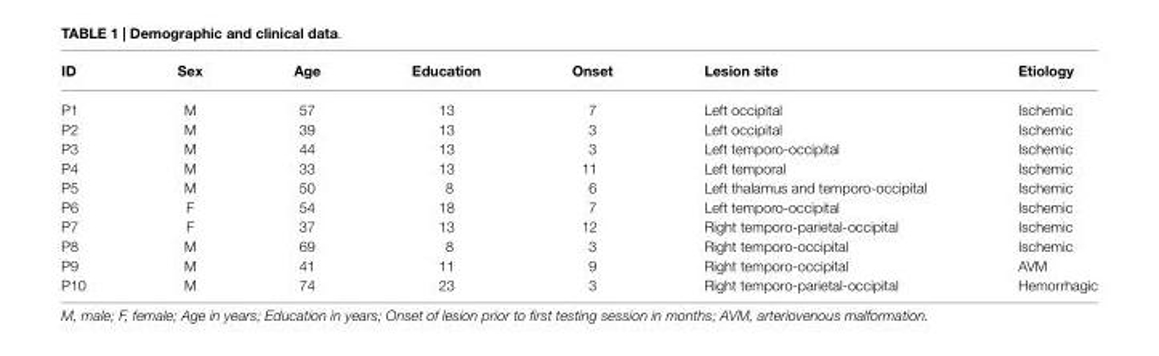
<table><thead><tr><td>ID</td><td>Sex</td><td>Age</td><td>Education</td><td>Onset</td><td>Lesion site</td><td>Etiology</td></tr></thead><tbody><tr><td>P1</td><td>M</td><td>57</td><td>13</td><td>7</td><td>Left occipital</td><td>Ischemic</td></tr><tr><td>P2</td><td>M</td><td>39</td><td>13</td><td>3</td><td>Left occipital</td><td>Ischemic</td></tr><tr><td>P3</td><td>M</td><td>44</td><td>13</td><td>3</td><td>Left temporo-occipital</td><td>Ischemic</td></tr><tr><td>P4</td><td>M</td><td>33</td><td>13</td><td>11</td><td>Left temporal</td><td>Ischemic</td></tr><tr><td>P5</td><td>M</td><td>50</td><td>8</td><td>6</td><td>Left thalamus and temporo-occipital</td><td>Ischemic</td></tr><tr><td>P6</td><td>F</td><td>54</td><td>18</td><td>7</td><td>Left temporo-occipital</td><td>Ischemic</td></tr><tr><td>P7</td><td>F</td><td>37</td><td>13</td><td>12</td><td>Right temporo-parietal-occipital</td><td>Ischemic</td></tr><tr><td>P8</td><td>M</td><td>69</td><td>8</td><td>3</td><td>Right temporo-occipital</td><td>Ischemic</td></tr><tr><td>P9</td><td>M</td><td>41</td><td>11</td><td>9</td><td>Right temporo-occipital</td><td>AVM</td></tr><tr><td>P10</td><td>M</td><td>74</td><td>23</td><td>3</td><td>Right temporo-parietal-occipital</td><td>Hemorrhagic</td></tr></tbody></table>